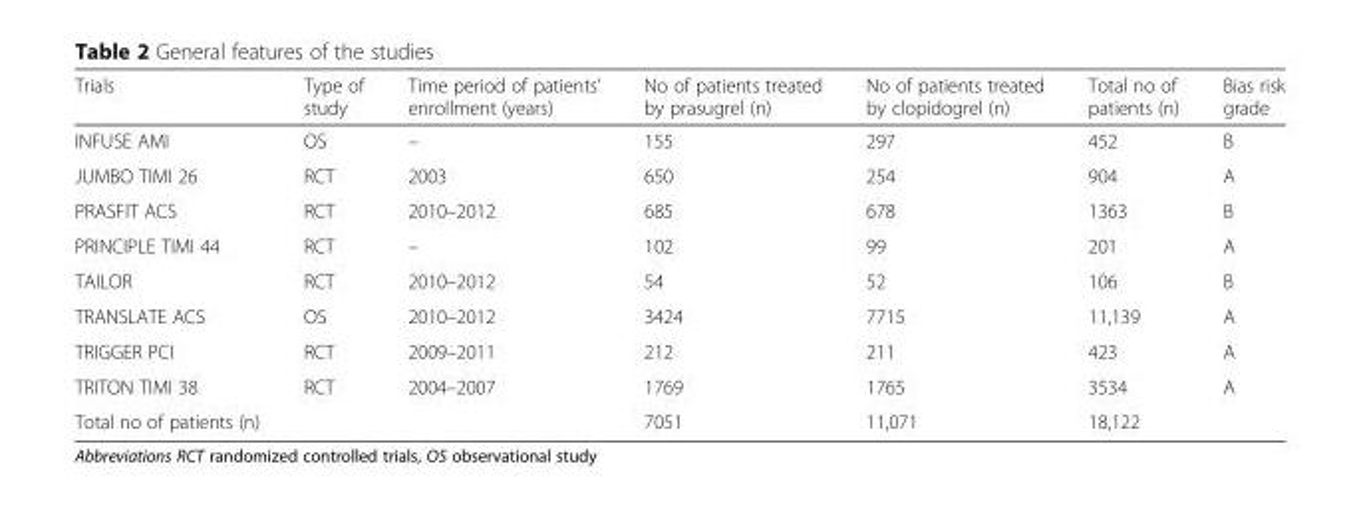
<table><thead><tr><td>Trials</td><td>Type of study</td><td>Time period of patients’ enrollment (years)</td><td>No of patients treated by prasugrel (n)</td><td>No of patients treated by clopidogrel (n)</td><td>Total no of patients (n)</td><td>Bias risk grade</td></tr></thead><tbody><tr><td>INFUSE AMI</td><td>OS</td><td>–</td><td>155</td><td>297</td><td>452</td><td>B</td></tr><tr><td>JUMBO TIMI 26</td><td>RCT</td><td>2003</td><td>650</td><td>254</td><td>904</td><td>A</td></tr><tr><td>PRASFIT ACS</td><td>RCT</td><td>2010–2012</td><td>685</td><td>678</td><td>1363</td><td>B</td></tr><tr><td>PRINCIPLE TIMI 44</td><td>RCT</td><td>–</td><td>102</td><td>99</td><td>201</td><td>A</td></tr><tr><td>TAILOR</td><td>RCT</td><td>2010–2012</td><td>54</td><td>52</td><td>106</td><td>B</td></tr><tr><td>TRANSLATE ACS</td><td>OS</td><td>2010–2012</td><td>3424</td><td>7715</td><td>11,139</td><td>A</td></tr><tr><td>TRIGGER PCI</td><td>RCT</td><td>2009–2011</td><td>212</td><td>211</td><td>423</td><td>A</td></tr><tr><td>TRITON TIMI 38</td><td>RCT</td><td>2004–2007</td><td>1769</td><td>1765</td><td>3534</td><td>A</td></tr><tr><td>Total no of patients (n)</td><td></td><td></td><td>7051</td><td>11,071</td><td>18,122</td><td></td></tr></tbody></table>